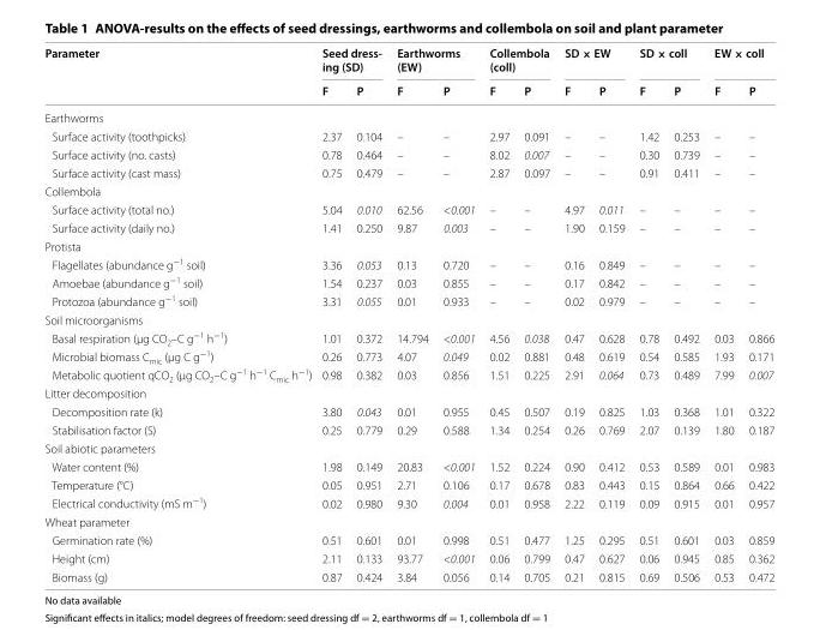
<table><thead><tr><td rowspan="2">Parameter</td><td colspan="2">Seed dress- ing (SD)</td><td colspan="2">Earthworms (EW)</td><td colspan="2">Collembola (coll)</td><td colspan="2">SD × EW</td><td colspan="2">SD × coll</td><td colspan="2">EW × coll</td></tr><tr><td>F</td><td>P</td><td>F</td><td>P</td><td>F</td><td>P</td><td>F</td><td>P</td><td>F</td><td>P</td><td>F</td><td>P</td></tr></thead><tbody><tr><td colspan="13">Earthworms</td></tr><tr><td>Surface activity (toothpicks)</td><td>2.37</td><td>0.104</td><td>–</td><td>–</td><td>2.97</td><td>0.091</td><td>–</td><td>–</td><td>1.42</td><td>0.253</td><td>–</td><td>–</td></tr><tr><td>Surface activity (no. casts)</td><td>0.78</td><td>0.464</td><td>–</td><td>–</td><td>8.02</td><td>0.007</td><td>–</td><td>–</td><td>0.30</td><td>0.739</td><td>–</td><td>–</td></tr><tr><td>Surface activity (cast mass)</td><td>0.75</td><td>0.479</td><td>–</td><td>–</td><td>2.87</td><td>0.097</td><td>–</td><td>–</td><td>0.91</td><td>0.411</td><td>–</td><td>–</td></tr><tr><td colspan="13">Collembola</td></tr><tr><td>Surface activity (total no.)</td><td>5.04</td><td>0.010</td><td>62.56</td><td>&lt;0.001</td><td>–</td><td>–</td><td>4.97</td><td>0.011</td><td>–</td><td>–</td><td>–</td><td>–</td></tr><tr><td>Surface activity (daily no.)</td><td>1.41</td><td>0.250</td><td>9.87</td><td>0.003</td><td>–</td><td>–</td><td>1.90</td><td>0.159</td><td>–</td><td>–</td><td>–</td><td>–</td></tr><tr><td colspan="13">Protista</td></tr><tr><td>Flagellates (abundance g<sup>−1</sup> soil)</td><td>3.36</td><td>0.053</td><td>0.13</td><td>0.720</td><td>–</td><td>–</td><td>0.16</td><td>0.849</td><td>–</td><td>–</td><td>–</td><td>–</td></tr><tr><td>Amoebae (abundance g<sup>−1</sup> soil)</td><td>1.54</td><td>0.237</td><td>0.03</td><td>0.855</td><td>–</td><td>–</td><td>0.17</td><td>0.842</td><td>–</td><td>–</td><td>–</td><td>–</td></tr><tr><td>Protozoa (abundance g<sup>−1</sup> soil)</td><td>3.31</td><td>0.055</td><td>0.01</td><td>0.933</td><td>–</td><td>–</td><td>0.02</td><td>0.979</td><td>–</td><td>–</td><td>–</td><td>–</td></tr><tr><td colspan="13">Soil microorganisms</td></tr><tr><td>Basal respiration (µg CO<sub>2</sub>–C g<sup>−1</sup> h<sup>−1</sup>)</td><td>1.01</td><td>0.372</td><td>14.794</td><td>&lt;0.001</td><td>4.56</td><td>0.038</td><td>0.47</td><td>0.628</td><td>0.78</td><td>0.492</td><td>0.03</td><td>0.866</td></tr><tr><td>Microbial biomass C<sub>mic</sub> (µg C g<sup>−1</sup>)</td><td>0.26</td><td>0.773</td><td>4.07</td><td>0.049</td><td>0.02</td><td>0.881</td><td>0.48</td><td>0.619</td><td>0.54</td><td>0.585</td><td>1.93</td><td>0.171</td></tr><tr><td>Metabolic quotient qCO<sub>2</sub> (µg CO<sub>2</sub>–C g<sup>−1</sup> h<sup>−1</sup> C<sub>mic</sub> h<sup>−1</sup>)</td><td>0.98</td><td>0.382</td><td>0.03</td><td>0.856</td><td>1.51</td><td>0.225</td><td>2.91</td><td>0.064</td><td>0.73</td><td>0.489</td><td>7.99</td><td>0.007</td></tr><tr><td colspan="13">Litter decomposition</td></tr><tr><td>Decomposition rate (k)</td><td>3.80</td><td>0.043</td><td>0.01</td><td>0.955</td><td>0.45</td><td>0.507</td><td>0.19</td><td>0.825</td><td>1.03</td><td>0.368</td><td>1.01</td><td>0.322</td></tr><tr><td>Stabilisation factor (S)</td><td>0.25</td><td>0.779</td><td>0.29</td><td>0.588</td><td>1.34</td><td>0.254</td><td>0.26</td><td>0.769</td><td>2.07</td><td>0.139</td><td>1.80</td><td>0.187</td></tr><tr><td colspan="13">Soil abiotic parameters</td></tr><tr><td>Water content (%)</td><td>1.98</td><td>0.149</td><td>20.83</td><td>&lt;0.001</td><td>1.52</td><td>0.224</td><td>0.90</td><td>0.412</td><td>0.53</td><td>0.589</td><td>0.01</td><td>0.983</td></tr><tr><td>Temperature (°C)</td><td>0.05</td><td>0.951</td><td>2.71</td><td>0.106</td><td>0.17</td><td>0.678</td><td>0.83</td><td>0.443</td><td>0.15</td><td>0.864</td><td>0.66</td><td>0.422</td></tr><tr><td>Electrical conductivity (mS m<sup>−1</sup>)</td><td>0.02</td><td>0.980</td><td>9.30</td><td>0.004</td><td>0.01</td><td>0.958</td><td>2.22</td><td>0.119</td><td>0.09</td><td>0.915</td><td>0.01</td><td>0.957</td></tr><tr><td colspan="13">Wheat parameter</td></tr><tr><td>Germination rate (%)</td><td>0.51</td><td>0.601</td><td>0.01</td><td>0.998</td><td>0.51</td><td>0.477</td><td>1.25</td><td>0.295</td><td>0.51</td><td>0.601</td><td>0.03</td><td>0.859</td></tr><tr><td>Height (cm)</td><td>2.11</td><td>0.133</td><td>93.77</td><td>&lt;0.001</td><td>0.06</td><td>0.799</td><td>0.47</td><td>0.627</td><td>0.06</td><td>0.945</td><td>0.85</td><td>0.362</td></tr><tr><td>Biomass (g)</td><td>0.87</td><td>0.424</td><td>3.84</td><td>0.056</td><td>0.14</td><td>0.705</td><td>0.21</td><td>0.815</td><td>0.69</td><td>0.506</td><td>0.53</td><td>0.472</td></tr></tbody></table>